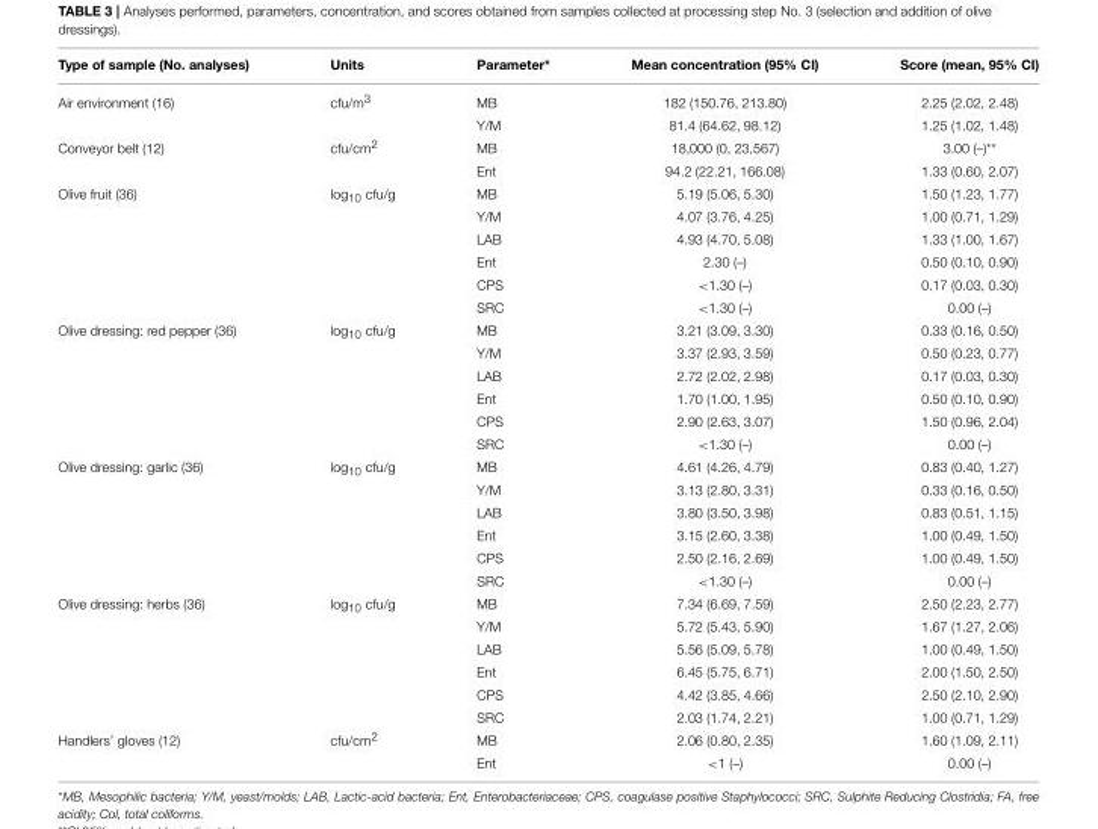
<table><thead><tr><td>Type of sample (No. analyses)</td><td>Units</td><td>Parameter*</td><td>Mean concentration (95% CI)</td><td>Score (mean, 95% CI)</td></tr></thead><tbody><tr><td rowspan="2">Air environment (16)</td><td>cfu/m<sup>3</sup></td><td>MB</td><td>182 (150.76, 213.80)</td><td>2.25 (2.02, 2.48)</td></tr><tr><td></td><td>Y/M</td><td>81.4 (64.62, 98.12)</td><td>1.25 (1.02, 1.48)</td></tr><tr><td rowspan="2">Conveyor belt (12)</td><td>cfu/cm<sup>2</sup></td><td>MB</td><td>18,000 (0, 23,567)</td><td>3.00 (–)**</td></tr><tr><td></td><td>Ent</td><td>94.2 (22.21, 166.08)</td><td>1.33 (0.60, 2.07)</td></tr><tr><td rowspan="6">Olive fruit (36)</td><td>log<sub>10</sub> cfu/g</td><td>MB</td><td>5.19 (5.06, 5.30)</td><td>1.50 (1.23, 1.77)</td></tr><tr><td></td><td>Y/M</td><td>4.07 (3.76, 4.25)</td><td>1.00 (0.71, 1.29)</td></tr><tr><td></td><td>LAB</td><td>4.93 (4.70, 5.08)</td><td>1.33 (1.00, 1.67)</td></tr><tr><td></td><td>Ent</td><td>2.30 (–)</td><td>0.50 (0.10, 0.90)</td></tr><tr><td></td><td>CPS</td><td>&lt;1.30 (–)</td><td>0.17 (0.03, 0.30)</td></tr><tr><td></td><td>SRC</td><td>&lt;1.30 (–)</td><td>0.00 (–)</td></tr><tr><td rowspan="6">Olive dressing: red pepper (36)</td><td>log<sub>10</sub> cfu/g</td><td>MB</td><td>3.21 (3.09, 3.30)</td><td>0.33 (0.16, 0.50)</td></tr><tr><td></td><td>Y/M</td><td>3.37 (2.93, 3.59)</td><td>0.50 (0.23, 0.77)</td></tr><tr><td></td><td>LAB</td><td>2.72 (2.02, 2.98)</td><td>0.17 (0.03, 0.30)</td></tr><tr><td></td><td>Ent</td><td>1.70 (1.00, 1.95)</td><td>0.50 (0.10, 0.90)</td></tr><tr><td></td><td>CPS</td><td>2.90 (2.63, 3.07)</td><td>1.50 (0.96, 2.04)</td></tr><tr><td></td><td>SRC</td><td>&lt;1.30 (–)</td><td>0.00 (–)</td></tr><tr><td rowspan="6">Olive dressing: garlic (36)</td><td>log<sub>10</sub> cfu/g</td><td>MB</td><td>4.61 (4.26, 4.79)</td><td>0.83 (0.40, 1.27)</td></tr><tr><td></td><td>Y/M</td><td>3.13 (2.80, 3.31)</td><td>0.33 (0.16, 0.50)</td></tr><tr><td></td><td>LAB</td><td>3.80 (3.50, 3.98)</td><td>0.83 (0.51, 1.15)</td></tr><tr><td></td><td>Ent</td><td>3.15 (2.60, 3.38)</td><td>1.00 (0.49, 1.50)</td></tr><tr><td></td><td>CPS</td><td>2.50 (2.16, 2.69)</td><td>1.00 (0.49, 1.50)</td></tr><tr><td></td><td>SRC</td><td>&lt;1.30 (–)</td><td>0.00 (–)</td></tr><tr><td rowspan="6">Olive dressing: herbs (36)</td><td>log<sub>10</sub> cfu/g</td><td>MB</td><td>7.34 (6.69, 7.59)</td><td>2.50 (2.23, 2.77)</td></tr><tr><td></td><td>Y/M</td><td>5.72 (5.43, 5.90)</td><td>1.67 (1.27, 2.06)</td></tr><tr><td></td><td>LAB</td><td>5.56 (5.09, 5.78)</td><td>1.00 (0.49, 1.50)</td></tr><tr><td></td><td>Ent</td><td>6.45 (5.75, 6.71)</td><td>2.00 (1.50, 2.50)</td></tr><tr><td></td><td>CPS</td><td>4.42 (3.85, 4.66)</td><td>2.50 (2.10, 2.90)</td></tr><tr><td></td><td>SRC</td><td>2.03 (1.74, 2.21)</td><td>1.00 (0.71, 1.29)</td></tr><tr><td rowspan="2">Handlers’ gloves (12)</td><td>cfu/cm<sup>2</sup></td><td>MB</td><td>2.06 (0.80, 2.35)</td><td>1.60 (1.09, 2.11)</td></tr><tr><td></td><td>Ent</td><td>&lt;1 (–)</td><td>0.00 (–)</td></tr></tbody></table>